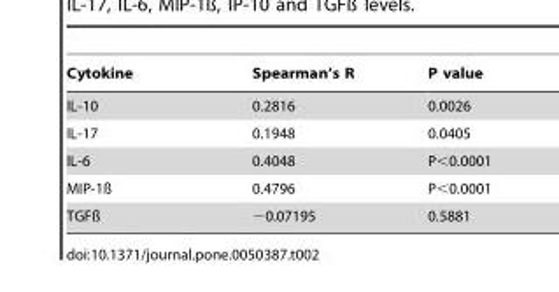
<table><thead><tr><td>Cytokine</td><td>Spearman’s R</td><td>P value</td></tr></thead><tbody><tr><td>IL-10</td><td>0.2816</td><td>0.0026</td></tr><tr><td>IL-17</td><td>0.1948</td><td>0.0405</td></tr><tr><td>IL-6</td><td>0.4048</td><td>P&lt;0.0001</td></tr><tr><td>MIP-1ß</td><td>0.4796</td><td>P&lt;0.0001</td></tr><tr><td>TGFß</td><td>−0.07195</td><td>0.5881</td></tr></tbody></table>